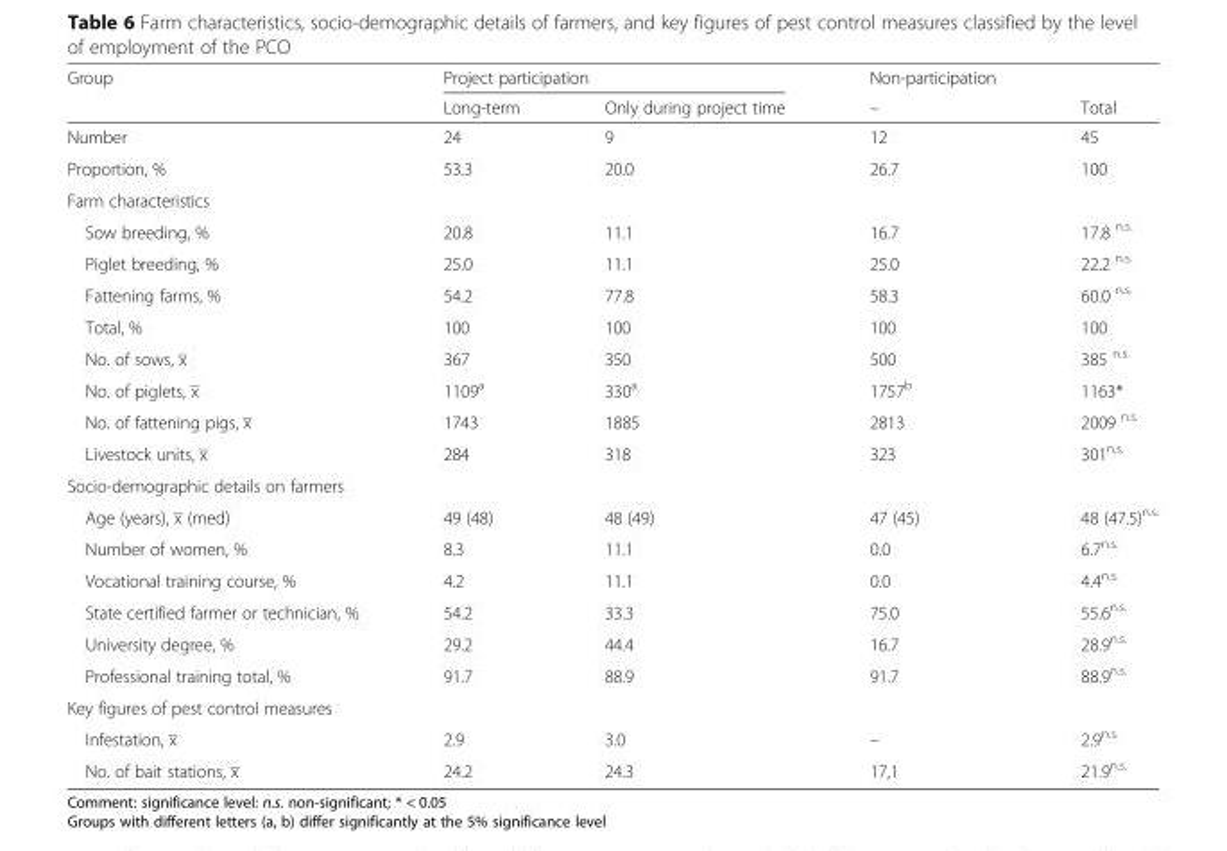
<table><thead><tr><td rowspan="2">Group</td><td colspan="2">Project participation</td><td rowspan="2">Non-participation –</td><td rowspan="2">Total</td></tr><tr><td>Long-term</td><td>Only during project time</td></tr></thead><tbody><tr><td>Number</td><td>24</td><td>9</td><td>12</td><td>45</td></tr><tr><td>Proportion, %</td><td>53.3</td><td>20.0</td><td>26.7</td><td>100</td></tr><tr><td colspan="5">Farm characteristics</td></tr><tr><td>Sow breeding, %</td><td>20.8</td><td>11.1</td><td>16.7</td><td>17.8 <sup>n.s.</sup></td></tr><tr><td>Piglet breeding, %</td><td>25.0</td><td>11.1</td><td>25.0</td><td>22.2 <sup>n.s.</sup></td></tr><tr><td>Fattening farms, %</td><td>54.2</td><td>77.8</td><td>58.3</td><td>60.0 <sup>n.s.</sup></td></tr><tr><td>Total, %</td><td>100</td><td>100</td><td>100</td><td>100</td></tr><tr><td>No. of sows, x̅</td><td>367</td><td>350</td><td>500</td><td>385 <sup>n.s.</sup></td></tr><tr><td>No. of piglets, x̅</td><td>1109<sup>a</sup></td><td>330<sup>a</sup></td><td>1757<sup>b</sup></td><td>1163*</td></tr><tr><td>No. of fattening pigs, x̅</td><td>1743</td><td>1885</td><td>2813</td><td>2009 <sup>n.s.</sup></td></tr><tr><td>Livestock units, x̅</td><td>284</td><td>318</td><td>323</td><td>301<sup>n.s.</sup></td></tr><tr><td colspan="5">Socio-demographic details on farmers</td></tr><tr><td>Age (years), x̅ (med)</td><td>49 (48)</td><td>48 (49)</td><td>47 (45)</td><td>48 (47.5)<sup>n.s.</sup></td></tr><tr><td>Number of women, %</td><td>8.3</td><td>11.1</td><td>0.0</td><td>6.7<sup>n.s.</sup></td></tr><tr><td>Vocational training course, %</td><td>4.2</td><td>11.1</td><td>0.0</td><td>4.4<sup>n.s.</sup></td></tr><tr><td>State certified farmer or technician, %</td><td>54.2</td><td>33.3</td><td>75.0</td><td>55.6<sup>n.s.</sup></td></tr><tr><td>University degree, %</td><td>29.2</td><td>44.4</td><td>16.7</td><td>28.9<sup>n.s.</sup></td></tr><tr><td>Professional training total, %</td><td>91.7</td><td>88.9</td><td>91.7</td><td>88.9<sup>n.s.</sup></td></tr><tr><td colspan="5">Key figures of pest control measures</td></tr><tr><td>Infestation, x̅</td><td>2.9</td><td>3.0</td><td>–</td><td>2.9<sup>n.s.</sup></td></tr><tr><td>No. of bait stations, x̅</td><td>24.2</td><td>24.3</td><td>17,1</td><td>21.9<sup>n.s.</sup></td></tr></tbody></table>